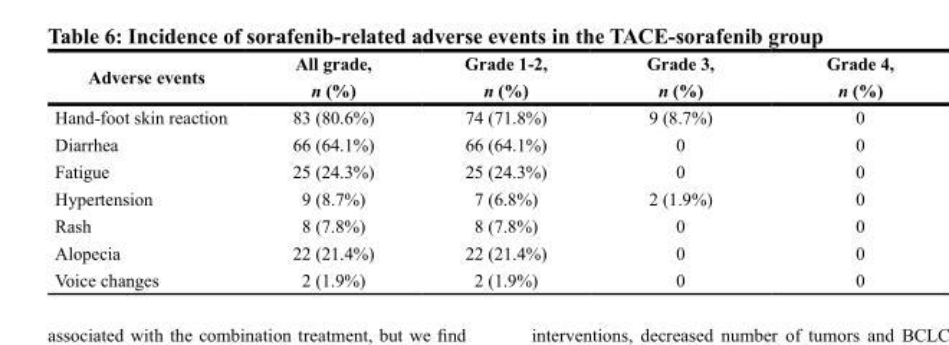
<table><thead><tr><td rowspan="2">Adverse events</td><td rowspan="2">All grade, n (%)</td><td rowspan="2">Grade 1-2, n (%)</td><td rowspan="2">Grade 3, n (%)</td><td rowspan="2">Grade 4, n (%)</td></tr><tr></tr></thead><tbody><tr><td>Hand-foot skin reaction</td><td>83 (80.6%)</td><td>74 (71.8%)</td><td>9 (8.7%)</td><td>0</td></tr><tr><td>Diarrhea</td><td>66 (64.1%)</td><td>66 (64.1%)</td><td>0</td><td>0</td></tr><tr><td>Fatigue</td><td>25 (24.3%)</td><td>25 (24.3%)</td><td>0</td><td>0</td></tr><tr><td>Hypertension</td><td>9 (8.7%)</td><td>7 (6.8%)</td><td>2 (1.9%)</td><td>0</td></tr><tr><td>Rash</td><td>8 (7.8%)</td><td>8 (7.8%)</td><td>0</td><td>0</td></tr><tr><td>Alopecia</td><td>22 (21.4%)</td><td>22 (21.4%)</td><td>0</td><td>0</td></tr><tr><td>Voice changes</td><td>2 (1.9%)</td><td>2 (1.9%)</td><td>0</td><td>0</td></tr></tbody></table>